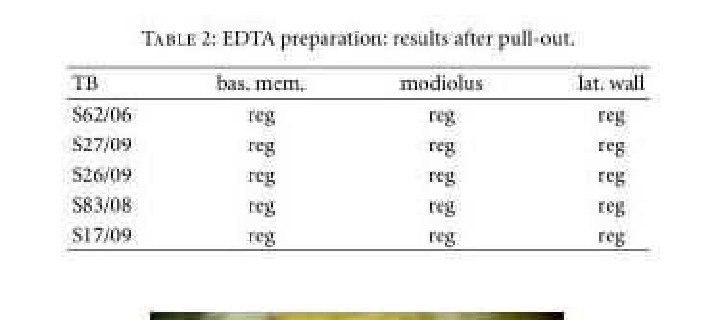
<table><thead><tr><td>TB</td><td>bas. mem.</td><td>modiolus</td><td>lat. wall</td></tr></thead><tbody><tr><td>S62/06</td><td>reg</td><td>reg</td><td>reg</td></tr><tr><td>S27/09</td><td>reg</td><td>reg</td><td>reg</td></tr><tr><td>S26/09</td><td>reg</td><td>reg</td><td>reg</td></tr><tr><td>S83/08</td><td>reg</td><td>reg</td><td>reg</td></tr><tr><td>S17/09</td><td>reg</td><td>reg</td><td>reg</td></tr></tbody></table>